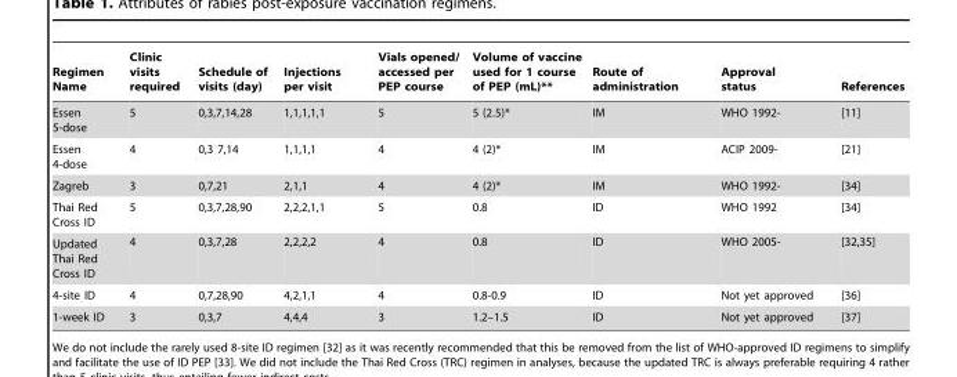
<table><thead><tr><td>Regimen Name</td><td>Clinic visits required</td><td>Schedule of visits (day)</td><td>Injections per visit</td><td>Vials opened/ accessed per PEP course</td><td>Volume of vaccine used for 1 course of PEP (mL)**</td><td>Route of administration</td><td>Approval status</td><td>References</td></tr></thead><tbody><tr><td>Essen 5-dose</td><td>5</td><td>0,3,7,14,28</td><td>1,1,1,1,1</td><td>5</td><td>5 (2.5)*</td><td>IM</td><td>WHO 1992-</td><td>[11]</td></tr><tr><td>Essen 4-dose</td><td>4</td><td>0,3 7,14</td><td>1,1,1,1</td><td>4</td><td>4 (2)*</td><td>IM</td><td>ACIP 2009-</td><td>[21]</td></tr><tr><td>Zagreb</td><td>3</td><td>0,7,21</td><td>2,1,1</td><td>4</td><td>4 (2)*</td><td>IM</td><td>WHO 1992-</td><td>[34]</td></tr><tr><td>Thai Red Cross ID</td><td>5</td><td>0,3,7,28,90</td><td>2,2,2,1,1</td><td>5</td><td>0.8</td><td>ID</td><td>WHO 1992</td><td>[34]</td></tr><tr><td>Updated Thai Red Cross ID</td><td>4</td><td>0,3,7,28</td><td>2,2,2,2</td><td>4</td><td>0.8</td><td>ID</td><td>WHO 2005-</td><td>[32,35]</td></tr><tr><td>4-site ID</td><td>4</td><td>0,7,28,90</td><td>4,2,1,1</td><td>4</td><td>0.8-0.9</td><td>ID</td><td>Not yet approved</td><td>[36]</td></tr><tr><td>1-week ID</td><td>3</td><td>0,3,7</td><td>4,4,4</td><td>3</td><td>1.2–1.5</td><td>ID</td><td>Not yet approved</td><td>[37]</td></tr></tbody></table>